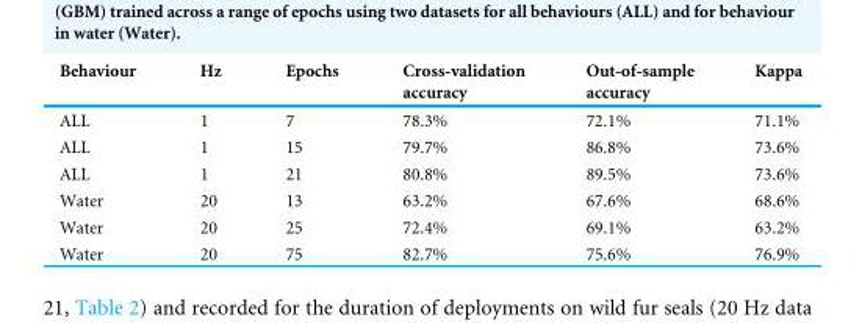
<table><thead><tr><td>Behaviour</td><td>Hz</td><td>Epochs</td><td>Cross-validation accuracy</td><td>Out-of-sample accuracy</td><td>Kappa</td></tr></thead><tbody><tr><td>ALL</td><td>1</td><td>7</td><td>78.3%</td><td>72.1%</td><td>71.1%</td></tr><tr><td>ALL</td><td>1</td><td>15</td><td>79.7%</td><td>86.8%</td><td>73.6%</td></tr><tr><td>ALL</td><td>1</td><td>21</td><td>80.8%</td><td>89.5%</td><td>73.6%</td></tr><tr><td>Water</td><td>20</td><td>13</td><td>63.2%</td><td>67.6%</td><td>68.6%</td></tr><tr><td>Water</td><td>20</td><td>25</td><td>72.4%</td><td>69.1%</td><td>63.2%</td></tr><tr><td>Water</td><td>20</td><td>75</td><td>82.7%</td><td>75.6%</td><td>76.9%</td></tr></tbody></table>